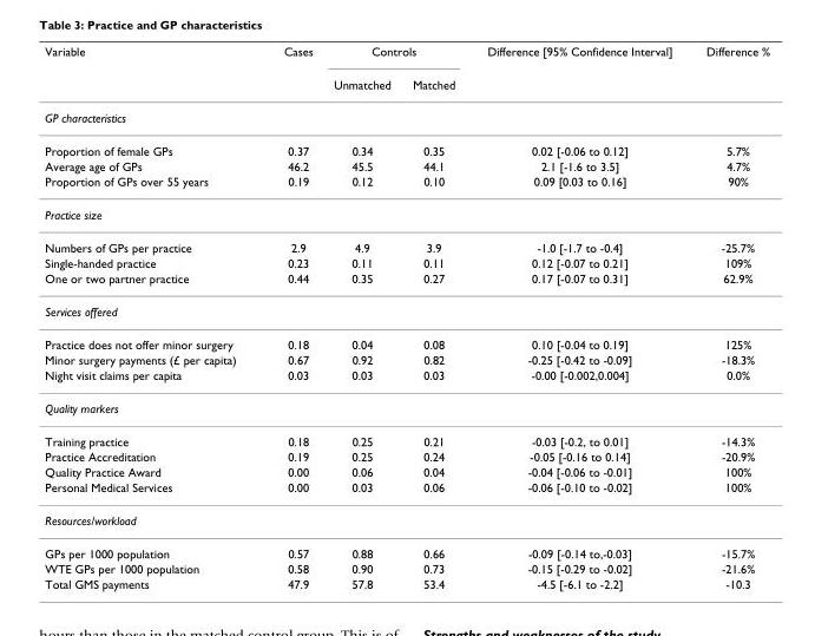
<table><thead><tr><td rowspan="2">Variable</td><td rowspan="2">Cases</td><td colspan="2">Controls</td><td rowspan="2">Difference [95% Confidence Interval]</td><td rowspan="2">Difference %</td></tr><tr><td>Unmatched</td><td>Matched</td></tr></thead><tbody><tr><td colspan="6">GP characteristics</td></tr><tr><td>Proportion of female GPs</td><td>0.37</td><td>0.34</td><td>0.35</td><td>0.02 [-0.06 to 0.12]</td><td>5.7%</td></tr><tr><td>Average age of GPs</td><td>46.2</td><td>45.5</td><td>44.1</td><td>2.1 [-1.6 to 3.5]</td><td>4.7%</td></tr><tr><td>Proportion of GPs over 55 years</td><td>0.19</td><td>0.12</td><td>0.10</td><td>0.09 [0.03 to 0.16]</td><td>90%</td></tr><tr><td colspan="6">Practice size</td></tr><tr><td>Numbers of GPs per practice</td><td>2.9</td><td>4.9</td><td>3.9</td><td>-1.0 [-1.7 to -0.4]</td><td>-25.7%</td></tr><tr><td>Single-handed practice</td><td>0.23</td><td>0.11</td><td>0.11</td><td>0.12 [-0.07 to 0.21]</td><td>109%</td></tr><tr><td>One or two partner practice</td><td>0.44</td><td>0.35</td><td>0.27</td><td>0.17 [-0.07 to 0.31]</td><td>62.9%</td></tr><tr><td colspan="6">Services offered</td></tr><tr><td>Practice does not offer minor surgery</td><td>0.18</td><td>0.04</td><td>0.08</td><td>0.10 [-0.04 to 0.19]</td><td>125%</td></tr><tr><td>Minor surgery payments (£ per capita)</td><td>0.67</td><td>0.92</td><td>0.82</td><td>-0.25 [-0.42 to -0.09]</td><td>-18.3%</td></tr><tr><td>Night visit claims per capita</td><td>0.03</td><td>0.03</td><td>0.03</td><td>-0.00 [-0.002,0.004]</td><td>0.0%</td></tr><tr><td colspan="6">Quality markers</td></tr><tr><td>Training practice</td><td>0.18</td><td>0.25</td><td>0.21</td><td>-0.03 [-0.2, to 0.01]</td><td>-14.3%</td></tr><tr><td>Practice Accreditation</td><td>0.19</td><td>0.25</td><td>0.24</td><td>-0.05 [-0.16 to 0.14]</td><td>-20.9%</td></tr><tr><td>Quality Practice Award</td><td>0.00</td><td>0.06</td><td>0.04</td><td>-0.04 [-0.06 to -0.01]</td><td>100%</td></tr><tr><td>Personal Medical Services</td><td>0.00</td><td>0.03</td><td>0.06</td><td>-0.06 [-0.10 to -0.02]</td><td>100%</td></tr><tr><td colspan="6">Resources/workload</td></tr><tr><td>GPs per 1000 population</td><td>0.57</td><td>0.88</td><td>0.66</td><td>-0.09 [-0.14 to,-0.03]</td><td>-15.7%</td></tr><tr><td>WTE GPs per 1000 population</td><td>0.58</td><td>0.90</td><td>0.73</td><td>-0.15 [-0.29 to -0.02]</td><td>-21.6%</td></tr><tr><td>Total GMS payments</td><td>47.9</td><td>57.8</td><td>53.4</td><td>-4.5 [-6.1 to -2.2]</td><td>-10.3</td></tr></tbody></table>